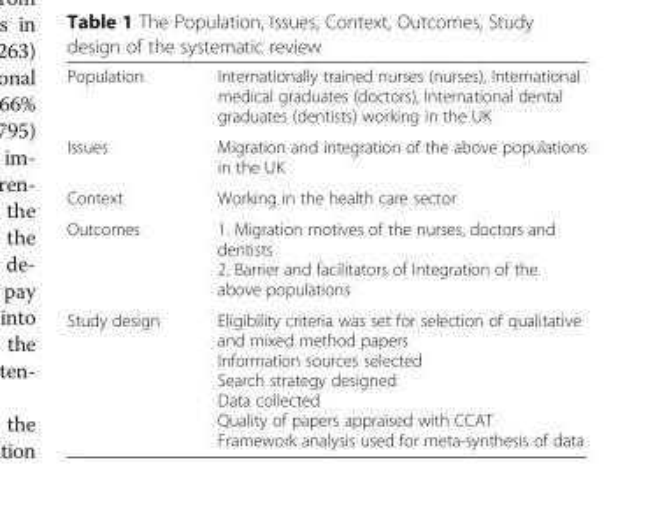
<table><tbody><tr><td>Population</td><td>Internationally trained nurses (nurses), International medical graduates (doctors), International dental graduates (dentists) working in the UK</td></tr><tr><td>Issues</td><td>Migration and integration of the above populations in the UK</td></tr><tr><td>Context</td><td>Working in the health care sector</td></tr><tr><td>Outcomes</td><td>1. Migration motives of the nurses, doctors and dentists 2. Barrier and facilitators of Integration of the above populations</td></tr><tr><td>Study design</td><td>Eligibility criteria was set for selection of qualitative and mixed method papers Information sources selected Search strategy designed Data collected Quality of papers appraised with CCAT Framework analysis used for meta-synthesis of data</td></tr></tbody></table>